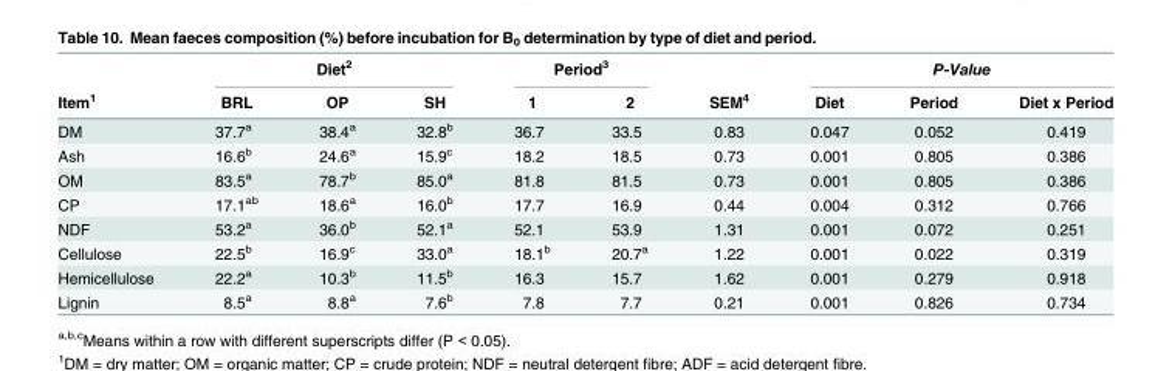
<table><thead><tr><td rowspan="2">Item<sup>1</sup></td><td colspan="3">Diet<sup>2</sup></td><td colspan="2">Period<sup>3</sup></td><td rowspan="2">SEM<sup>4</sup></td><td colspan="3">P-Value</td></tr><tr><td>BRL</td><td>OP</td><td>SH</td><td>1</td><td>2</td><td>Diet</td><td>Period</td><td>Diet x Period</td></tr></thead><tbody><tr><td>DM</td><td>37.7<sup>a</sup></td><td>38.4<sup>a</sup></td><td>32.8<sup>b</sup></td><td>36.7</td><td>33.5</td><td>0.83</td><td>0.047</td><td>0.052</td><td>0.419</td></tr><tr><td>Ash</td><td>16.6<sup>b</sup></td><td>24.6<sup>a</sup></td><td>15.9<sup>c</sup></td><td>18.2</td><td>18.5</td><td>0.73</td><td>0.001</td><td>0.805</td><td>0.386</td></tr><tr><td>OM</td><td>83.5<sup>a</sup></td><td>78.7<sup>b</sup></td><td>85.0<sup>a</sup></td><td>81.8</td><td>81.5</td><td>0.73</td><td>0.001</td><td>0.805</td><td>0.386</td></tr><tr><td>CP</td><td>17.1<sup>ab</sup></td><td>18.6<sup>a</sup></td><td>16.0<sup>b</sup></td><td>17.7</td><td>16.9</td><td>0.44</td><td>0.004</td><td>0.312</td><td>0.766</td></tr><tr><td>NDF</td><td>53.2<sup>a</sup></td><td>36.0<sup>b</sup></td><td>52.1<sup>a</sup></td><td>52.1</td><td>53.9</td><td>1.31</td><td>0.001</td><td>0.072</td><td>0.251</td></tr><tr><td>Cellulose</td><td>22.5<sup>b</sup></td><td>16.9<sup>c</sup></td><td>33.0<sup>a</sup></td><td>18.1<sup>b</sup></td><td>20.7<sup>a</sup></td><td>1.22</td><td>0.001</td><td>0.022</td><td>0.319</td></tr><tr><td>Hemicellulose</td><td>22.2<sup>a</sup></td><td>10.3<sup>b</sup></td><td>11.5<sup>b</sup></td><td>16.3</td><td>15.7</td><td>1.62</td><td>0.001</td><td>0.279</td><td>0.918</td></tr><tr><td>Lignin</td><td>8.5<sup>a</sup></td><td>8.8<sup>a</sup></td><td>7.6<sup>b</sup></td><td>7.8</td><td>7.7</td><td>0.21</td><td>0.001</td><td>0.826</td><td>0.734</td></tr></tbody></table>